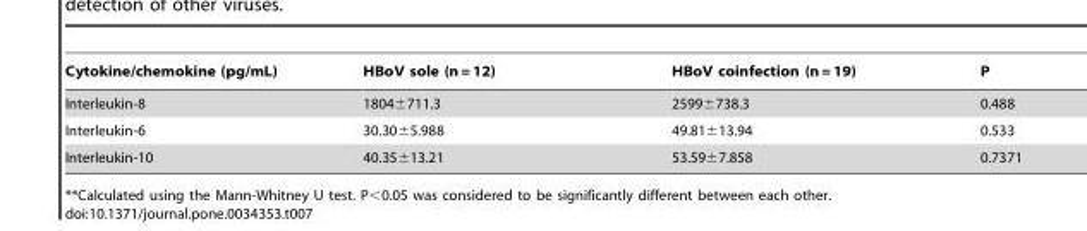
<table><thead><tr><td>Cytokine/chemokine (pg/mL)</td><td>HBoV sole (n = 12)</td><td>HBoV coinfection (n = 19)</td><td>P</td></tr></thead><tbody><tr><td>Interleukin-8</td><td>1804±711.3</td><td>2599±738.3</td><td>0.488</td></tr><tr><td>Interleukin-6</td><td>30.30±5.988</td><td>49.81±13.94</td><td>0.533</td></tr><tr><td>Interleukin-10</td><td>40.35±13.21</td><td>53.59±7.858</td><td>0.7371</td></tr></tbody></table>